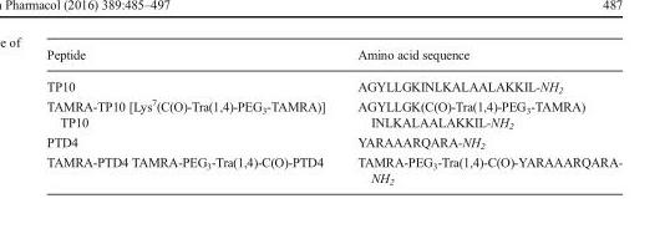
<table><thead><tr><td>Peptide</td><td>Amino acid sequence</td></tr></thead><tbody><tr><td>TP10</td><td>AGYLLGKINLKALAALAKKIL-NH<sub>2</sub></td></tr><tr><td>TAMRA-TP10 [Lys<sup>7</sup>(C(O)-Tra(1,4)-PEG<sub>3</sub>-TAMRA)] TP10</td><td>AGYLLGK(C(O)-Tra(1,4)-PEG<sub>3</sub>-TAMRA) INLKALAALAKKIL-NH<sub>2</sub></td></tr><tr><td>PTD4</td><td>YARAAARQARA-NH<sub>2</sub></td></tr><tr><td>TAMRA-PTD4 TAMRA-PEG<sub>3</sub>-Tra(1,4)-C(O)-PTD4</td><td>TAMRA-PEG<sub>3</sub>-Tra(1,4)-C(O)-YARAAARQARA- NH<sub>2</sub></td></tr></tbody></table>